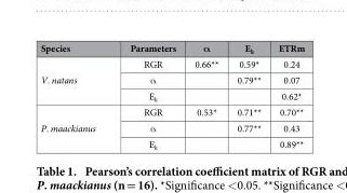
<table><thead><tr><td>Species</td><td>Parameters</td><td>α</td><td>E<sub>k</sub></td><td>ETRm</td></tr></thead><tbody><tr><td rowspan="3">V. natans</td><td>RGR</td><td>0.66**</td><td>0.59*</td><td>0.24</td></tr><tr><td>α</td><td></td><td>0.79**</td><td>0.07</td></tr><tr><td>E<sub>k</sub></td><td></td><td></td><td>0.62*</td></tr><tr><td rowspan="3">P. maackianus</td><td>RGR</td><td>0.53*</td><td>0.71**</td><td>0.70**</td></tr><tr><td>α</td><td></td><td>0.77**</td><td>0.43</td></tr><tr><td>E<sub>k</sub></td><td></td><td></td><td>0.89**</td></tr></tbody></table>